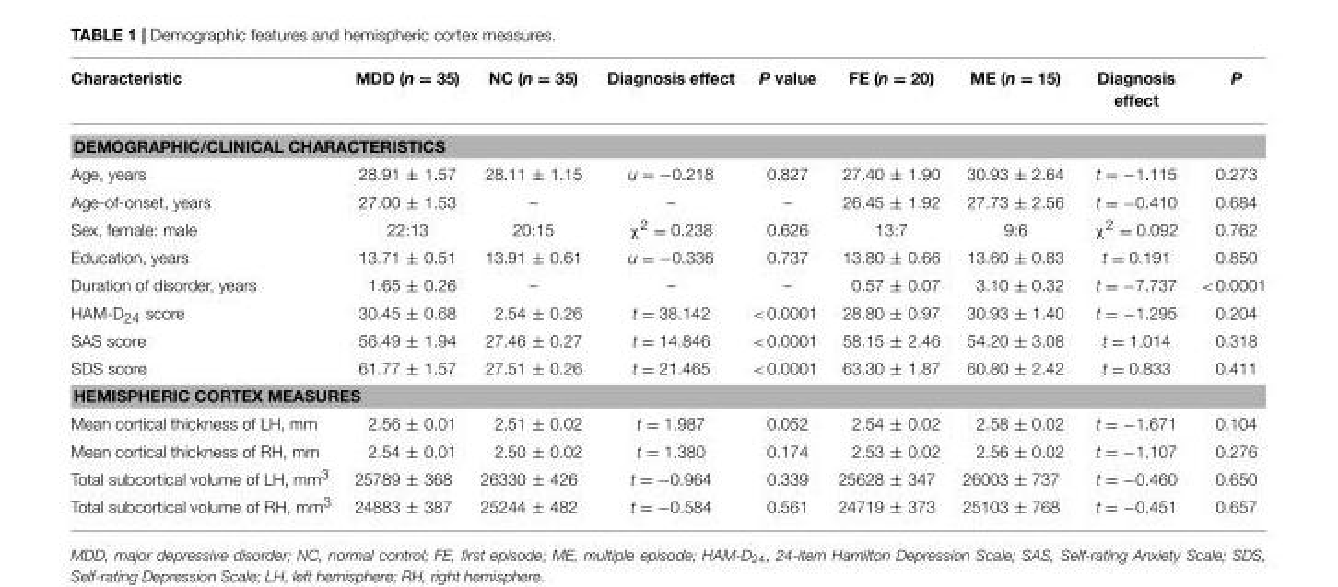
<table><thead><tr><td>Characteristic</td><td>MDD (n = 35)</td><td>NC (n = 35)</td><td>Diagnosis effect</td><td>P value</td><td>FE (n = 20)</td><td>ME (n = 15)</td><td>Diagnosis effect</td><td>P</td></tr></thead><tbody><tr><td colspan="9">DEMOGRAPHIC/CLINICAL CHARACTERISTICS</td></tr><tr><td>Age, years</td><td>28.91 ± 1.57</td><td>28.11 ± 1.15</td><td>u = −0.218</td><td>0.827</td><td>27.40 ± 1.90</td><td>30.93 ± 2.64</td><td>t = −1.115</td><td>0.273</td></tr><tr><td>Age-of-onset, years</td><td>27.00 ± 1.53</td><td>–</td><td>–</td><td>–</td><td>26.45 ± 1.92</td><td>27.73 ± 2.56</td><td>t = −0.410</td><td>0.684</td></tr><tr><td>Sex, female: male</td><td>22:13</td><td>20:15</td><td>χ<sup>2</sup> = 0.238</td><td>0.626</td><td>13:7</td><td>9:6</td><td>χ<sup>2</sup> = 0.092</td><td>0.762</td></tr><tr><td>Education, years</td><td>13.71 ± 0.51</td><td>13.91 ± 0.61</td><td>u = −0.336</td><td>0.737</td><td>13.80 ± 0.66</td><td>13.60 ± 0.83</td><td>t = 0.191</td><td>0.850</td></tr><tr><td>Duration of disorder, years</td><td>1.65 ± 0.26</td><td>–</td><td>–</td><td>–</td><td>0.57 ± 0.07</td><td>3.10 ± 0.32</td><td>t = −7.737</td><td>&lt;0.0001</td></tr><tr><td>HAM-D<sub>24</sub> score</td><td>30.45 ± 0.68</td><td>2.54 ± 0.26</td><td>t = 38.142</td><td>&lt;0.0001</td><td>28.80 ± 0.97</td><td>30.93 ± 1.40</td><td>t = −1.295</td><td>0.204</td></tr><tr><td>SAS score</td><td>56.49 ± 1.94</td><td>27.46 ± 0.27</td><td>t = 14.846</td><td>&lt;0.0001</td><td>58.15 ± 2.46</td><td>54.20 ± 3.08</td><td>t = 1.014</td><td>0.318</td></tr><tr><td>SDS score</td><td>61.77 ± 1.57</td><td>27.51 ± 0.26</td><td>t = 21.465</td><td>&lt;0.0001</td><td>63.30 ± 1.87</td><td>60.80 ± 2.42</td><td>t = 0.833</td><td>0.411</td></tr><tr><td colspan="9">HEMISPHERIC CORTEX MEASURES</td></tr><tr><td>Mean cortical thickness of LH, mm</td><td>2.56 ± 0.01</td><td>2.51 ± 0.02</td><td>t = 1.987</td><td>0.052</td><td>2.54 ± 0.02</td><td>2.58 ± 0.02</td><td>t = −1.671</td><td>0.104</td></tr><tr><td>Mean cortical thickness of RH, mm</td><td>2.54 ± 0.01</td><td>2.50 ± 0.02</td><td>t = 1.380</td><td>0.174</td><td>2.53 ± 0.02</td><td>2.56 ± 0.02</td><td>t = −1.107</td><td>0.276</td></tr><tr><td>Total subcortical volume of LH, mm<sup>3</sup></td><td>25789 ± 368</td><td>26330 ± 426</td><td>t = −0.964</td><td>0.339</td><td>25628 ± 347</td><td>26003 ± 737</td><td>t = −0.460</td><td>0.650</td></tr><tr><td>Total subcortical volume of RH, mm<sup>3</sup></td><td>24883 ± 387</td><td>25244 ± 482</td><td>t = −0.584</td><td>0.561</td><td>24719 ± 373</td><td>25103 ± 768</td><td>t = −0.451</td><td>0.657</td></tr></tbody></table>